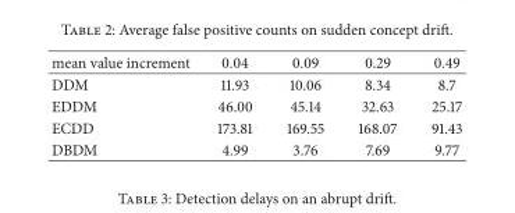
<table><thead><tr><td>mean value increment</td><td>0.04</td><td>0.09</td><td>0.29</td><td>0.49</td></tr></thead><tbody><tr><td>DDM</td><td>11.93</td><td>10.06</td><td>8.34</td><td>8.7</td></tr><tr><td>EDDM</td><td>46.00</td><td>45.14</td><td>32.63</td><td>25.17</td></tr><tr><td>ECDD</td><td>173.81</td><td>169.55</td><td>168.07</td><td>91.43</td></tr><tr><td>DBDM</td><td>4.99</td><td>3.76</td><td>7.69</td><td>9.77</td></tr></tbody></table>